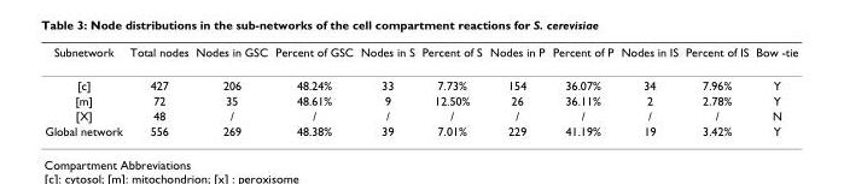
<table><thead><tr><td>Subnetwork</td><td>Total nodes</td><td>Nodes in GSC</td><td>Percent of GSC</td><td>Nodes in S</td><td>Percent of S</td><td>Nodes in P</td><td>Percent of P</td><td>Nodes in IS</td><td>Percent of IS</td><td>Bow -tie</td></tr></thead><tbody><tr><td>[c]</td><td>427</td><td>206</td><td>48.24%</td><td>33</td><td>7.73%</td><td>154</td><td>36.07%</td><td>34</td><td>7.96%</td><td>Y</td></tr><tr><td>[m]</td><td>72</td><td>35</td><td>48.61%</td><td>9</td><td>12.50%</td><td>26</td><td>36.11%</td><td>2</td><td>2.78%</td><td>Y</td></tr><tr><td>[X]</td><td>48</td><td>/</td><td>/</td><td>/</td><td>/</td><td>/</td><td>/</td><td>/</td><td>/</td><td>N</td></tr><tr><td>Global network</td><td>556</td><td>269</td><td>48.38%</td><td>39</td><td>7.01%</td><td>229</td><td>41.19%</td><td>19</td><td>3.42%</td><td>Y</td></tr></tbody></table>